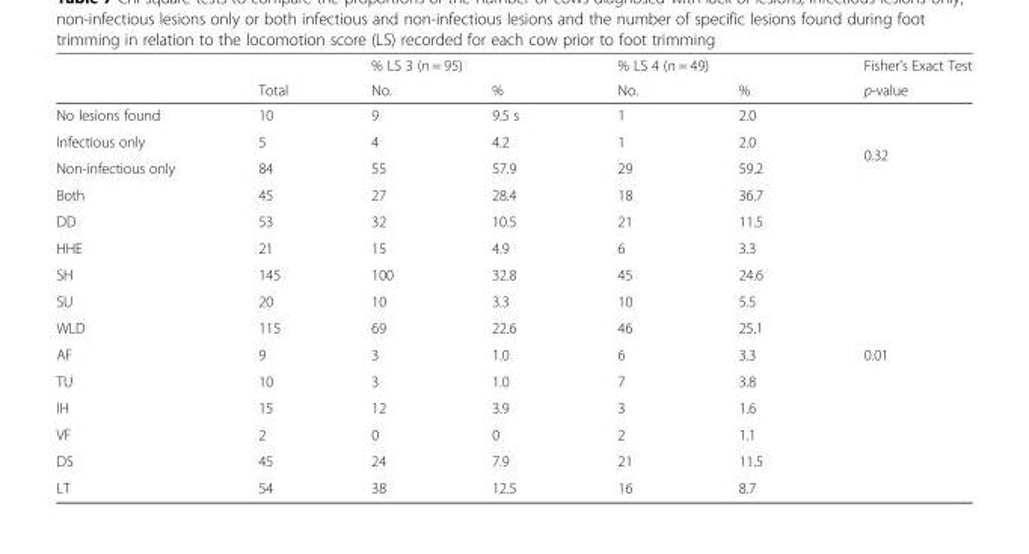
<table><thead><tr><td rowspan="2"></td><td rowspan="2">Total</td><td colspan="2">% LS 3 (n = 95)</td><td colspan="2">% LS 4 (n = 49)</td><td rowspan="2">Fisher’s Exact Test p-value</td></tr><tr><td>No.</td><td>%</td><td>No.</td><td>%</td></tr></thead><tbody><tr><td>No lesions found</td><td>10</td><td>9</td><td>9.5 s</td><td>1</td><td>2.0</td><td rowspan="4">0.32</td></tr><tr><td>Infectious only</td><td>5</td><td>4</td><td>4.2</td><td>1</td><td>2.0</td></tr><tr><td>Non-infectious only</td><td>84</td><td>55</td><td>57.9</td><td>29</td><td>59.2</td></tr><tr><td>Both</td><td>45</td><td>27</td><td>28.4</td><td>18</td><td>36.7</td></tr><tr><td>DD</td><td>53</td><td>32</td><td>10.5</td><td>21</td><td>11.5</td><td rowspan="5"></td></tr><tr><td>HHE</td><td>21</td><td>15</td><td>4.9</td><td>6</td><td>3.3</td></tr><tr><td>SH</td><td>145</td><td>100</td><td>32.8</td><td>45</td><td>24.6</td></tr><tr><td>SU</td><td>20</td><td>10</td><td>3.3</td><td>10</td><td>5.5</td></tr><tr><td>WLD</td><td>115</td><td>69</td><td>22.6</td><td>46</td><td>25.1</td></tr><tr><td>AF</td><td>9</td><td>3</td><td>1.0</td><td>6</td><td>3.3</td><td rowspan="6">0.01</td></tr><tr><td>TU</td><td>10</td><td>3</td><td>1.0</td><td>7</td><td>3.8</td></tr><tr><td>IH</td><td>15</td><td>12</td><td>3.9</td><td>3</td><td>1.6</td></tr><tr><td>VF</td><td>2</td><td>0</td><td>0</td><td>2</td><td>1.1</td></tr><tr><td>DS</td><td>45</td><td>24</td><td>7.9</td><td>21</td><td>11.5</td></tr><tr><td>LT</td><td>54</td><td>38</td><td>12.5</td><td>16</td><td>8.7</td></tr></tbody></table>